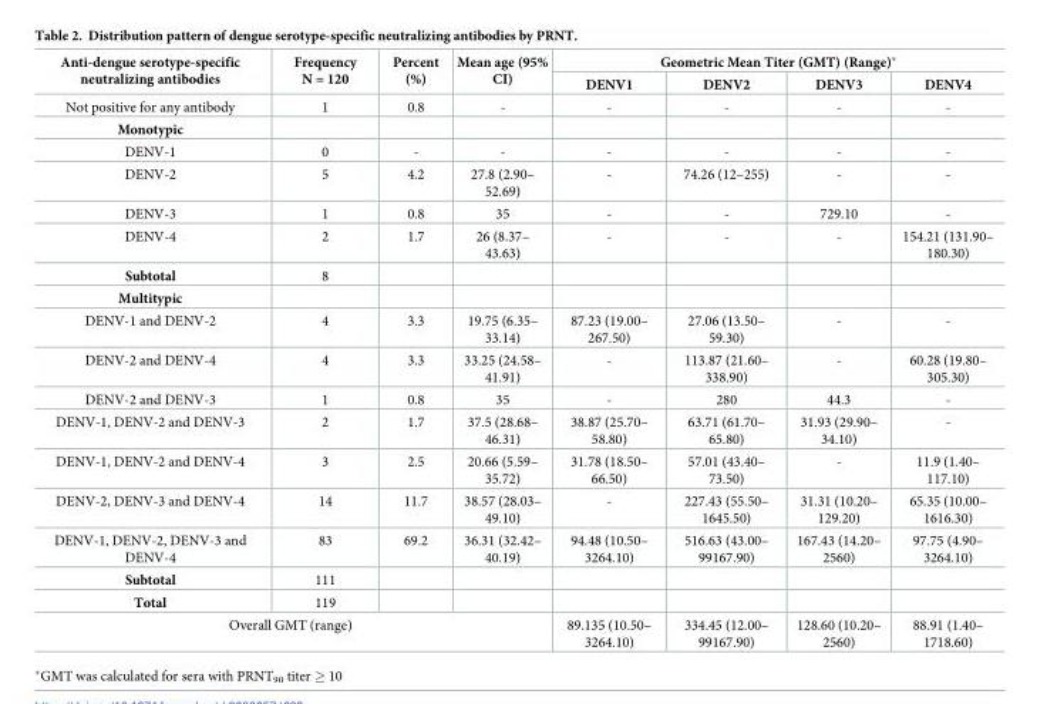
<table><thead><tr><td rowspan="2">Anti-dengue serotype-specific neutralizing antibodies</td><td rowspan="2">Frequency N = 120</td><td rowspan="2">Percent (%)</td><td rowspan="2">Mean age (95% CI)</td><td colspan="4">Geometric Mean Titer (GMT) (Range)*</td></tr><tr><td>DENV1</td><td>DENV2</td><td>DENV3</td><td>DENV4</td></tr></thead><tbody><tr><td>Not positive for any antibody</td><td>1</td><td>0.8</td><td>-</td><td>-</td><td>-</td><td>-</td><td>-</td></tr><tr><td colspan="8">Monotypic</td></tr><tr><td>DENV-1</td><td>0</td><td>-</td><td>-</td><td>-</td><td>-</td><td>-</td><td>-</td></tr><tr><td>DENV-2</td><td>5</td><td>4.2</td><td>27.8 (2.90– 52.69)</td><td>-</td><td>74.26 (12–255)</td><td>-</td><td>-</td></tr><tr><td>DENV-3</td><td>1</td><td>0.8</td><td>35</td><td>-</td><td>-</td><td>729.10</td><td>-</td></tr><tr><td>DENV-4</td><td>2</td><td>1.7</td><td>26 (8.37– 43.63)</td><td>-</td><td>-</td><td>-</td><td>154.21 (131.90– 180.30)</td></tr><tr><td>Subtotal</td><td>8</td><td></td><td></td><td></td><td></td><td></td><td></td></tr><tr><td colspan="8">Multitypic</td></tr><tr><td>DENV-1 and DENV-2</td><td>4</td><td>3.3</td><td>19.75 (6.35– 33.14)</td><td>87.23 (19.00– 267.50)</td><td>27.06 (13.50– 59.30)</td><td>-</td><td>-</td></tr><tr><td>DENV-2 and DENV-4</td><td>4</td><td>3.3</td><td>33.25 (24.58– 41.91)</td><td>-</td><td>113.87 (21.60– 338.90)</td><td>-</td><td>60.28 (19.80– 305.30)</td></tr><tr><td>DENV-2 and DENV-3</td><td>1</td><td>0.8</td><td>35</td><td>-</td><td>280</td><td>44.3</td><td>-</td></tr><tr><td>DENV-1, DENV-2 and DENV-3</td><td>2</td><td>1.7</td><td>37.5 (28.68– 46.31)</td><td>38.87 (25.70– 58.80)</td><td>63.71 (61.70– 65.80)</td><td>31.93 (29.90– 34.10)</td><td>-</td></tr><tr><td>DENV-1, DENV-2 and DENV-4</td><td>3</td><td>2.5</td><td>20.66 (5.59– 35.72)</td><td>31.78 (18.50– 66.50)</td><td>57.01 (43.40– 73.50)</td><td>-</td><td>11.9 (1.40– 117.10)</td></tr><tr><td>DENV-2, DENV-3 and DENV-4</td><td>14</td><td>11.7</td><td>38.57 (28.03– 49.10)</td><td>-</td><td>227.43 (55.50– 1645.50)</td><td>31.31 (10.20– 129.20)</td><td>65.35 (10.00– 1616.30)</td></tr><tr><td>DENV-1, DENV-2, DENV-3 and DENV-4</td><td>83</td><td>69.2</td><td>36.31 (32.42– 40.19)</td><td>94.48 (10.50– 3264.10)</td><td>516.63 (43.00– 99167.90)</td><td>167.43 (14.20– 2560)</td><td>97.75 (4.90– 3264.10)</td></tr><tr><td>Subtotal</td><td>111</td><td></td><td></td><td></td><td></td><td></td><td></td></tr><tr><td>Total</td><td>119</td><td></td><td></td><td></td><td></td><td></td><td></td></tr><tr><td colspan="4">Overall GMT (range)</td><td>89.135 (10.50– 3264.10)</td><td>334.45 (12.00– 99167.90)</td><td>128.60 (10.20– 2560)</td><td>88.91 (1.40– 1718.60)</td></tr></tbody></table>